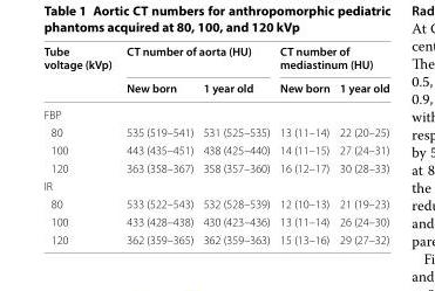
<table><thead><tr><td rowspan="2">Tube voltage (kVp)</td><td colspan="2">CT number of aorta (HU)</td><td colspan="2">CT number of mediastinum (HU)</td></tr><tr><td>New born</td><td>1 year old</td><td>New born</td><td>1 year old</td></tr></thead><tbody><tr><td colspan="5">FBP</td></tr><tr><td>80</td><td>535 (519–541)</td><td>531 (525–535)</td><td>13 (11–14)</td><td>22 (20–25)</td></tr><tr><td>100</td><td>443 (435–451)</td><td>438 (425–440)</td><td>14 (11–15)</td><td>27 (24–31)</td></tr><tr><td>120</td><td>363 (358–367)</td><td>358 (357–360)</td><td>16 (12–17)</td><td>30 (28–33)</td></tr><tr><td colspan="5">IR</td></tr><tr><td>80</td><td>533 (522–543)</td><td>532 (528–539)</td><td>12 (10–13)</td><td>21 (19–23)</td></tr><tr><td>100</td><td>433 (428–438)</td><td>430 (423–436)</td><td>13 (11–14)</td><td>26 (24–30)</td></tr><tr><td>120</td><td>362 (359–365)</td><td>362 (359–363)</td><td>15 (13–16)</td><td>29 (27–32)</td></tr></tbody></table>